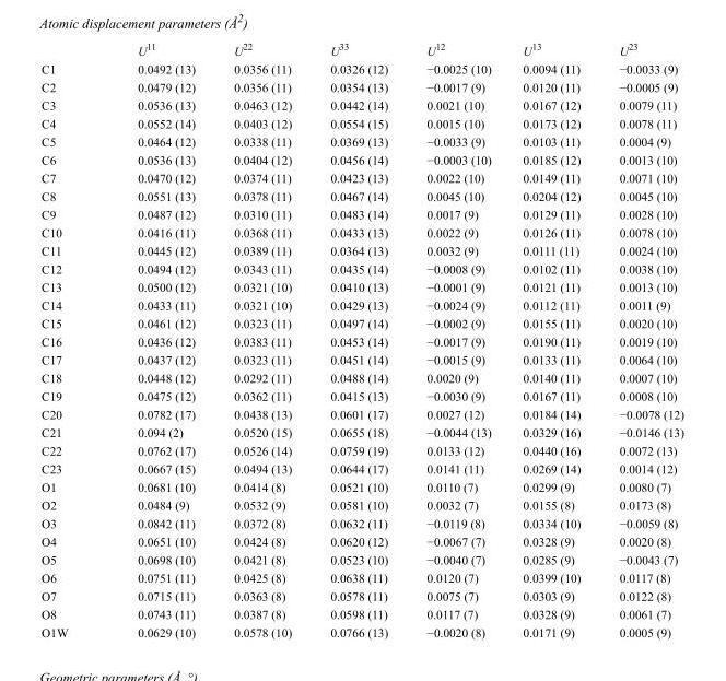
<table><thead><tr><td></td><td>U<sup>11</sup></td><td>U<sup>22</sup></td><td>U<sup>33</sup></td><td>U<sup>12</sup></td><td>U<sup>13</sup></td><td>U<sup>23</sup></td></tr></thead><tbody><tr><td>C1</td><td>0.0492 (13)</td><td>0.0356 (11)</td><td>0.0326 (12)</td><td>−0.0025 (10)</td><td>0.0094 (11)</td><td>−0.0033 (9)</td></tr><tr><td>C2</td><td>0.0479 (12)</td><td>0.0356 (11)</td><td>0.0354 (13)</td><td>−0.0017 (9)</td><td>0.0120 (11)</td><td>−0.0005 (9)</td></tr><tr><td>C3</td><td>0.0536 (13)</td><td>0.0463 (12)</td><td>0.0442 (14)</td><td>0.0021 (10)</td><td>0.0167 (12)</td><td>0.0079 (11)</td></tr><tr><td>C4</td><td>0.0552 (14)</td><td>0.0403 (12)</td><td>0.0554 (15)</td><td>0.0015 (10)</td><td>0.0173 (12)</td><td>0.0078 (11)</td></tr><tr><td>C5</td><td>0.0464 (12)</td><td>0.0338 (11)</td><td>0.0369 (13)</td><td>−0.0033 (9)</td><td>0.0103 (11)</td><td>0.0004 (9)</td></tr><tr><td>C6</td><td>0.0536 (13)</td><td>0.0404 (12)</td><td>0.0456 (14)</td><td>−0.0003 (10)</td><td>0.0185 (12)</td><td>0.0013 (10)</td></tr><tr><td>C7</td><td>0.0470 (12)</td><td>0.0374 (11)</td><td>0.0423 (13)</td><td>0.0022 (10)</td><td>0.0149 (11)</td><td>0.0071 (10)</td></tr><tr><td>C8</td><td>0.0551 (13)</td><td>0.0378 (11)</td><td>0.0467 (14)</td><td>0.0045 (10)</td><td>0.0204 (12)</td><td>0.0045 (10)</td></tr><tr><td>C9</td><td>0.0487 (12)</td><td>0.0310 (11)</td><td>0.0483 (14)</td><td>0.0017 (9)</td><td>0.0129 (11)</td><td>0.0028 (10)</td></tr><tr><td>C10</td><td>0.0416 (11)</td><td>0.0368 (11)</td><td>0.0433 (13)</td><td>0.0022 (9)</td><td>0.0126 (11)</td><td>0.0078 (10)</td></tr><tr><td>C11</td><td>0.0445 (12)</td><td>0.0389 (11)</td><td>0.0364 (13)</td><td>0.0032 (9)</td><td>0.0111 (11)</td><td>0.0024 (10)</td></tr><tr><td>C12</td><td>0.0494 (12)</td><td>0.0343 (11)</td><td>0.0435 (14)</td><td>−0.0008 (9)</td><td>0.0102 (11)</td><td>0.0038 (10)</td></tr><tr><td>C13</td><td>0.0500 (12)</td><td>0.0321 (10)</td><td>0.0410 (13)</td><td>−0.0001 (9)</td><td>0.0121 (11)</td><td>0.0013 (10)</td></tr><tr><td>C14</td><td>0.0433 (11)</td><td>0.0321 (10)</td><td>0.0429 (13)</td><td>−0.0024 (9)</td><td>0.0112 (11)</td><td>0.0011 (9)</td></tr><tr><td>C15</td><td>0.0461 (12)</td><td>0.0323 (11)</td><td>0.0497 (14)</td><td>−0.0002 (9)</td><td>0.0155 (11)</td><td>0.0020 (10)</td></tr><tr><td>C16</td><td>0.0436 (12)</td><td>0.0383 (11)</td><td>0.0453 (14)</td><td>−0.0017 (9)</td><td>0.0190 (11)</td><td>0.0019 (10)</td></tr><tr><td>C17</td><td>0.0437 (12)</td><td>0.0323 (11)</td><td>0.0451 (14)</td><td>−0.0015 (9)</td><td>0.0133 (11)</td><td>0.0064 (10)</td></tr><tr><td>C18</td><td>0.0448 (12)</td><td>0.0292 (11)</td><td>0.0488 (14)</td><td>0.0020 (9)</td><td>0.0140 (11)</td><td>0.0007 (10)</td></tr><tr><td>C19</td><td>0.0475 (12)</td><td>0.0362 (11)</td><td>0.0415 (13)</td><td>−0.0030 (9)</td><td>0.0167 (11)</td><td>0.0008 (10)</td></tr><tr><td>C20</td><td>0.0782 (17)</td><td>0.0438 (13)</td><td>0.0601 (17)</td><td>0.0027 (12)</td><td>0.0184 (14)</td><td>−0.0078 (12)</td></tr><tr><td>C21</td><td>0.094 (2)</td><td>0.0520 (15)</td><td>0.0655 (18)</td><td>−0.0044 (13)</td><td>0.0329 (16)</td><td>−0.0146 (13)</td></tr><tr><td>C22</td><td>0.0762 (17)</td><td>0.0526 (14)</td><td>0.0759 (19)</td><td>0.0133 (12)</td><td>0.0440 (16)</td><td>0.0072 (13)</td></tr><tr><td>C23</td><td>0.0667 (15)</td><td>0.0494 (13)</td><td>0.0644 (17)</td><td>0.0141 (11)</td><td>0.0269 (14)</td><td>0.0014 (12)</td></tr><tr><td>O1</td><td>0.0681 (10)</td><td>0.0414 (8)</td><td>0.0521 (10)</td><td>0.0110 (7)</td><td>0.0299 (9)</td><td>0.0080 (7)</td></tr><tr><td>O2</td><td>0.0484 (9)</td><td>0.0532 (9)</td><td>0.0581 (10)</td><td>0.0032 (7)</td><td>0.0155 (8)</td><td>0.0173 (8)</td></tr><tr><td>O3</td><td>0.0842 (11)</td><td>0.0372 (8)</td><td>0.0632 (11)</td><td>−0.0119 (8)</td><td>0.0334 (10)</td><td>−0.0059 (8)</td></tr><tr><td>O4</td><td>0.0651 (10)</td><td>0.0424 (8)</td><td>0.0620 (12)</td><td>−0.0067 (7)</td><td>0.0328 (9)</td><td>0.0020 (8)</td></tr><tr><td>O5</td><td>0.0698 (10)</td><td>0.0421 (8)</td><td>0.0523 (10)</td><td>−0.0040 (7)</td><td>0.0285 (9)</td><td>−0.0043 (7)</td></tr><tr><td>O6</td><td>0.0751 (11)</td><td>0.0425 (8)</td><td>0.0638 (11)</td><td>0.0120 (7)</td><td>0.0399 (10)</td><td>0.0117 (8)</td></tr><tr><td>O7</td><td>0.0715 (11)</td><td>0.0363 (8)</td><td>0.0578 (11)</td><td>0.0075 (7)</td><td>0.0303 (9)</td><td>0.0122 (8)</td></tr><tr><td>O8</td><td>0.0743 (11)</td><td>0.0387 (8)</td><td>0.0598 (11)</td><td>0.0117 (7)</td><td>0.0328 (9)</td><td>0.0061 (7)</td></tr><tr><td>O1W</td><td>0.0629 (10)</td><td>0.0578 (10)</td><td>0.0766 (13)</td><td>−0.0020 (8)</td><td>0.0171 (9)</td><td>0.0005 (9)</td></tr></tbody></table>